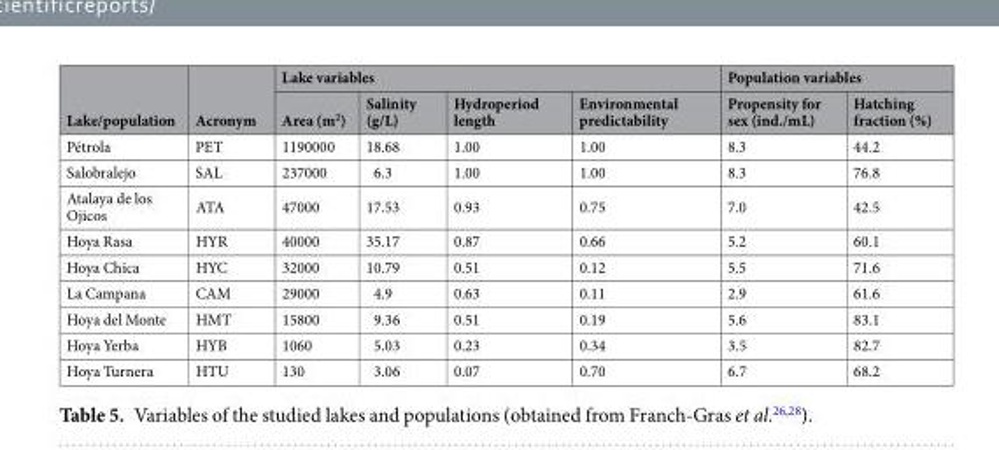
<table><thead><tr><td rowspan="2">Lake/population</td><td rowspan="2">Acronym</td><td colspan="4">Lake variables</td><td colspan="2">Population variables</td></tr><tr><td>Area (m<sup>2</sup>)</td><td>Salinity (g/L)</td><td>Hydroperiod length</td><td>Environmental predictability</td><td>Propensity for sex (ind./mL)</td><td>Hatching fraction (%)</td></tr></thead><tbody><tr><td>Pétrola</td><td>PET</td><td>1190000</td><td>18.68</td><td>1.00</td><td>1.00</td><td>8.3</td><td>44.2</td></tr><tr><td>Salobralejo</td><td>SAL</td><td>237000</td><td>6.3</td><td>1.00</td><td>1.00</td><td>8.3</td><td>76.8</td></tr><tr><td>Atalaya de los Ojicos</td><td>ATA</td><td>47000</td><td>17.53</td><td>0.93</td><td>0.75</td><td>7.0</td><td>42.5</td></tr><tr><td>Hoya Rasa</td><td>HYR</td><td>40000</td><td>35.17</td><td>0.87</td><td>0.66</td><td>5.2</td><td>60.1</td></tr><tr><td>Hoya Chica</td><td>HYC</td><td>32000</td><td>10.79</td><td>0.51</td><td>0.12</td><td>5.5</td><td>71.6</td></tr><tr><td>La Campana</td><td>CAM</td><td>29000</td><td>4.9</td><td>0.63</td><td>0.11</td><td>2.9</td><td>61.6</td></tr><tr><td>Hoya del Monte</td><td>HMT</td><td>15800</td><td>9.36</td><td>0.51</td><td>0.19</td><td>5.6</td><td>83.1</td></tr><tr><td>Hoya Yerba</td><td>HYB</td><td>1060</td><td>5.03</td><td>0.23</td><td>0.34</td><td>3.5</td><td>82.7</td></tr><tr><td>Hoya Turnera</td><td>HTU</td><td>130</td><td>3.06</td><td>0.07</td><td>0.70</td><td>6.7</td><td>68.2</td></tr></tbody></table>